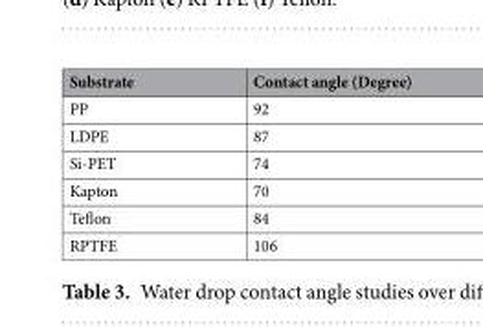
<table><thead><tr><td>Substrate</td><td>Contact angle (Degree)</td></tr></thead><tbody><tr><td>PP</td><td>92</td></tr><tr><td>LDPE</td><td>87</td></tr><tr><td>Si-PET</td><td>74</td></tr><tr><td>Kapton</td><td>70</td></tr><tr><td>Teflon</td><td>84</td></tr><tr><td>RPTFE</td><td>106</td></tr></tbody></table>